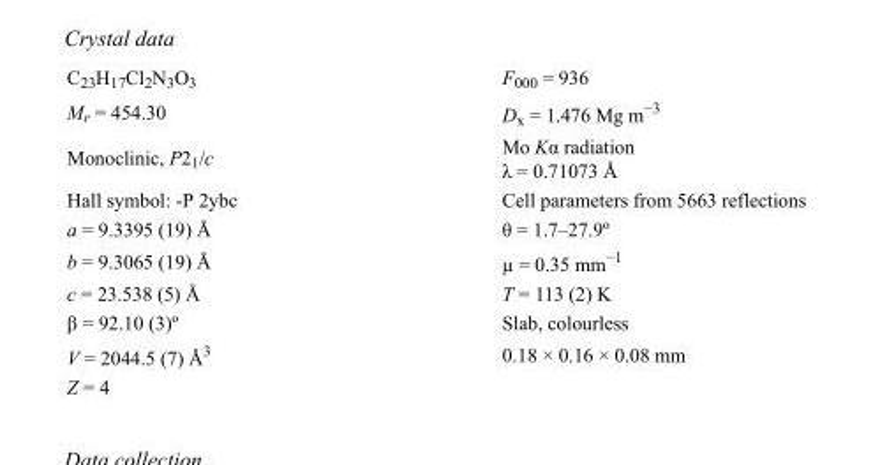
<table><tbody><tr><td>C<sub>23</sub>H<sub>17</sub>Cl<sub>2</sub>N<sub>3</sub>O<sub>3</sub></td><td>F<sub>000</sub> = 936</td></tr><tr><td>M<sub>r</sub> = 454.30</td><td>D<sub>x</sub> = 1.476 Mg m<sup>−3</sup></td></tr><tr><td>Monoclinic, P2<sub>1</sub>/c</td><td>Mo Kα radiation λ = 0.71073 Å</td></tr><tr><td>Hall symbol: -P 2ybc</td><td>Cell parameters from 5663 reflections</td></tr><tr><td>a = 9.3395 (19) Å</td><td>θ = 1.7–27.9º</td></tr><tr><td>b = 9.3065 (19) Å</td><td>µ = 0.35 mm<sup>−1</sup></td></tr><tr><td>c = 23.538 (5) Å</td><td>T = 113 (2) K</td></tr><tr><td>β = 92.10 (3)º</td><td>Slab, colourless</td></tr><tr><td>V = 2044.5 (7) Å<sup>3</sup></td><td>0.18 × 0.16 × 0.08 mm</td></tr><tr><td>Z = 4</td><td></td></tr></tbody></table>